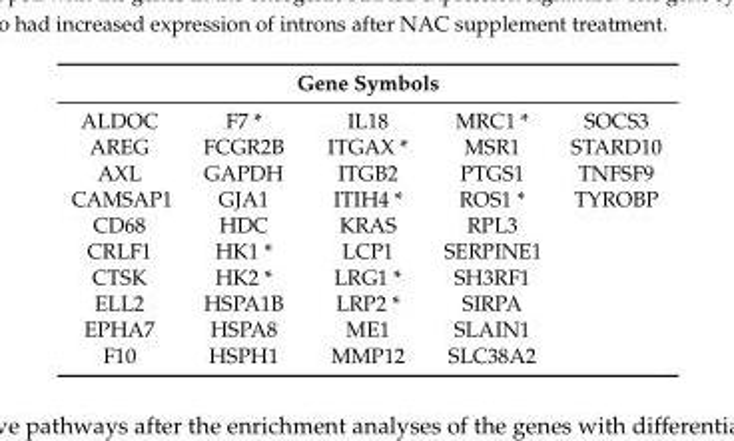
<table><thead><tr><td colspan="5">Gene Symbols</td></tr><tr><td>ALDOC</td><td>F7 *</td><td>IL18</td><td>MRC1 *</td><td>SOCS3</td></tr></thead><tbody><tr><td>AREG</td><td>FCGR2B</td><td>ITGAX *</td><td>MSR1</td><td>STARD10</td></tr><tr><td>AXL</td><td>GAPDH</td><td>ITGB2</td><td>PTGS1</td><td>TNFSF9</td></tr><tr><td>CAMSAP1</td><td>GJA1</td><td>ITIH4 *</td><td>ROS1 *</td><td>TYROBP</td></tr><tr><td>CD68</td><td>HDC</td><td>KRAS</td><td>RPL3</td><td></td></tr><tr><td>CRLF1</td><td>HK1 *</td><td>LCP1</td><td>SERPINE1</td><td></td></tr><tr><td>CTSK</td><td>HK2 *</td><td>LRG1 *</td><td>SH3RF1</td><td></td></tr><tr><td>ELL2</td><td>HSPA1B</td><td>LRP2 *</td><td>SIRPA</td><td></td></tr><tr><td>EPHA7</td><td>HSPA8</td><td>ME1</td><td>SLAIN1</td><td></td></tr><tr><td>F10</td><td>HSPH1</td><td>MMP12</td><td>SLC38A2</td><td></td></tr></tbody></table>